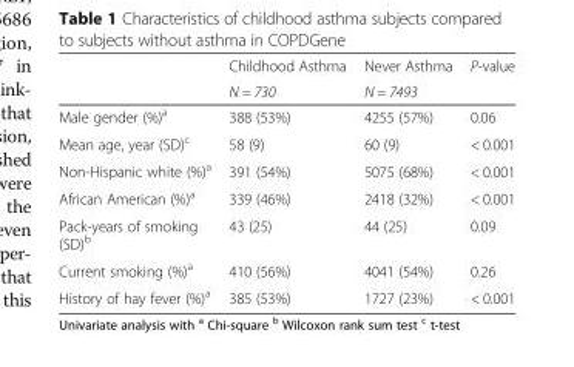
<table><thead><tr><td rowspan="2"></td><td rowspan="2">Childhood Asthma N = 730</td><td rowspan="2">Never Asthma N = 7493</td><td rowspan="2">P-value</td></tr><tr></tr></thead><tbody><tr><td>Male gender (%)<sup>a</sup></td><td>388 (53%)</td><td>4255 (57%)</td><td>0.06</td></tr><tr><td>Mean age, year (SD)<sup>c</sup></td><td>58 (9)</td><td>60 (9)</td><td>&lt; 0.001</td></tr><tr><td>Non-Hispanic white (%)<sup>a</sup></td><td>391 (54%)</td><td>5075 (68%)</td><td>&lt; 0.001</td></tr><tr><td>African American (%)<sup>a</sup></td><td>339 (46%)</td><td>2418 (32%)</td><td>&lt; 0.001</td></tr><tr><td>Pack-years of smoking (SD)<sup>b</sup></td><td>43 (25)</td><td>44 (25)</td><td>0.09</td></tr><tr><td>Current smoking (%)<sup>a</sup></td><td>410 (56%)</td><td>4041 (54%)</td><td>0.26</td></tr><tr><td>History of hay fever (%)<sup>a</sup></td><td>385 (53%)</td><td>1727 (23%)</td><td>&lt; 0.001</td></tr></tbody></table>